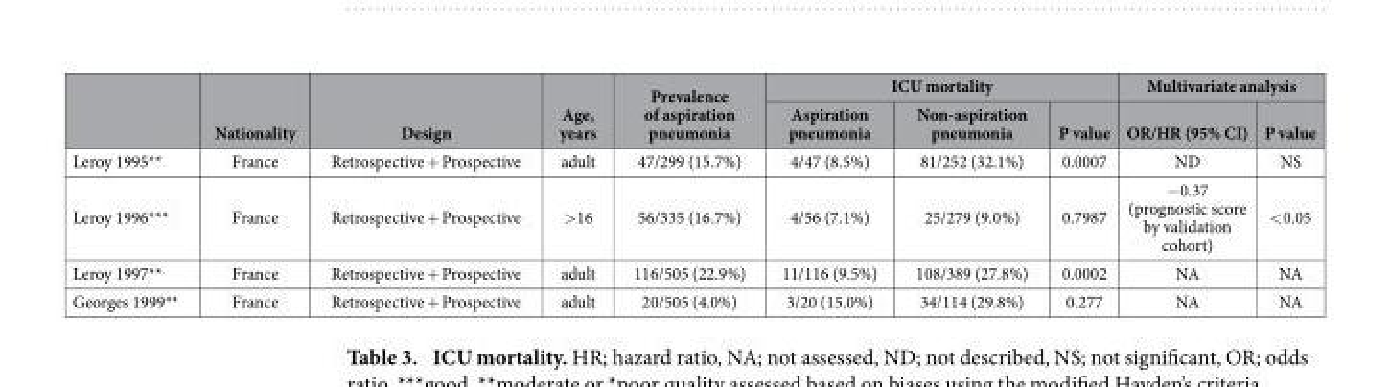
<table><thead><tr><td rowspan="2"></td><td rowspan="2">Nationality</td><td rowspan="2">Design</td><td rowspan="2">Age, years</td><td rowspan="2">Prevalence of aspiration pneumonia</td><td colspan="3">ICU mortality</td><td colspan="2">Multivariate analysis</td></tr><tr><td>Aspiration pneumonia</td><td>Non-aspiration pneumonia</td><td>P value</td><td>OR/HR (95% CI)</td><td>P value</td></tr></thead><tbody><tr><td>Leroy 1995**</td><td>France</td><td>Retrospective + Prospective</td><td>adult</td><td>47/299 (15.7%)</td><td>4/47 (8.5%)</td><td>81/252 (32.1%)</td><td>0.0007</td><td>ND</td><td>NS</td></tr><tr><td>Leroy 1996***</td><td>France</td><td>Retrospective + Prospective</td><td>&gt; 16</td><td>56/335 (16.7%)</td><td>4/56 (7.1%)</td><td>25/279 (9.0%)</td><td>0.7987</td><td>− 0.37 (prognostic score by validation cohort)</td><td>&lt; 0.05</td></tr><tr><td>Leroy 1997**</td><td>France</td><td>Retrospective + Prospective</td><td>adult</td><td>116/505 (22.9%)</td><td>11/116 (9.5%)</td><td>108/389 (27.8%)</td><td>0.0002</td><td>NA</td><td>NA</td></tr><tr><td>Georges 1999**</td><td>France</td><td>Retrospective + Prospective</td><td>adult</td><td>20/505 (4.0%)</td><td>3/20 (15.0%)</td><td>34/114 (29.8%)</td><td>0.277</td><td>NA</td><td>NA</td></tr></tbody></table>